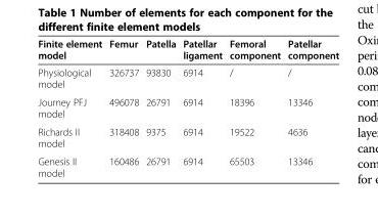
<table><thead><tr><td>Finite element model</td><td>Femur</td><td>Patella</td><td>Patellar ligament</td><td>Femoral component</td><td>Patellar component</td></tr></thead><tbody><tr><td>Physiological model</td><td>326737</td><td>93830</td><td>6914</td><td>/</td><td>/</td></tr><tr><td>Journey PFJ model</td><td>496078</td><td>26791</td><td>6914</td><td>18396</td><td>13346</td></tr><tr><td>Richards II model</td><td>318408</td><td>9375</td><td>6914</td><td>19522</td><td>4636</td></tr><tr><td>Genesis II model</td><td>160486</td><td>26791</td><td>6914</td><td>65503</td><td>13346</td></tr></tbody></table>